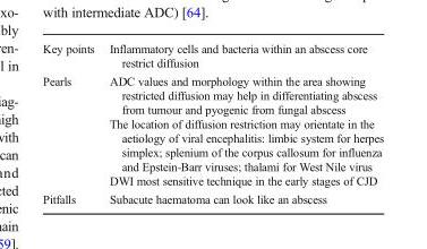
<table><tbody><tr><td>Key points</td><td>Inflammatory cells and bacteria within an abscess core restrict diffusion</td></tr><tr><td>Pearls</td><td>ADC values and morphology within the area showing restricted diffusion may help in differentiating abscess from tumour and pyogenic from fungal abscess The location of diffusion restriction may orientate in the aetiology of viral encephalitis: limbic system for herpes simplex; splenium of the corpus callosum for influenza and Epstein-Barr viruses; thalami for West Nile virus DWI most sensitive technique in the early stages of CJD</td></tr><tr><td>Pitfalls</td><td>Subacute haematoma can look like an abscess</td></tr></tbody></table>